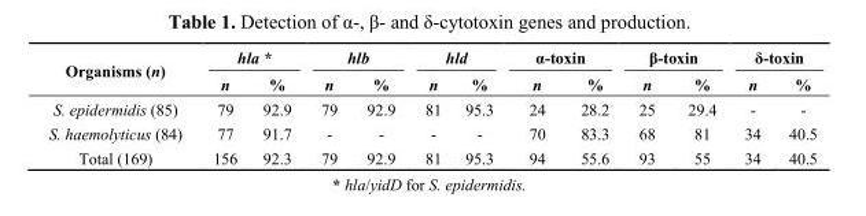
<table><thead><tr><td rowspan="2">Organisms (n)</td><td colspan="2">hla *</td><td colspan="2">hlb</td><td colspan="2">hld</td><td colspan="2">α-toxin</td><td colspan="2">β-toxin</td><td colspan="2">δ-toxin</td></tr><tr><td>n</td><td>%</td><td>n</td><td>%</td><td>n</td><td>%</td><td>n</td><td>%</td><td>n</td><td>%</td><td>n</td><td>%</td></tr></thead><tbody><tr><td>S. epidermidis (85)</td><td>79</td><td>92.9</td><td>79</td><td>92.9</td><td>81</td><td>95.3</td><td>24</td><td>28.2</td><td>25</td><td>29.4</td><td>-</td><td>-</td></tr><tr><td>S. haemolyticus (84)</td><td>77</td><td>91.7</td><td>-</td><td>-</td><td>-</td><td>-</td><td>70</td><td>83.3</td><td>68</td><td>81</td><td>34</td><td>40.5</td></tr><tr><td>Total (169)</td><td>156</td><td>92.3</td><td>79</td><td>92.9</td><td>81</td><td>95.3</td><td>94</td><td>55.6</td><td>93</td><td>55</td><td>34</td><td>40.5</td></tr></tbody></table>